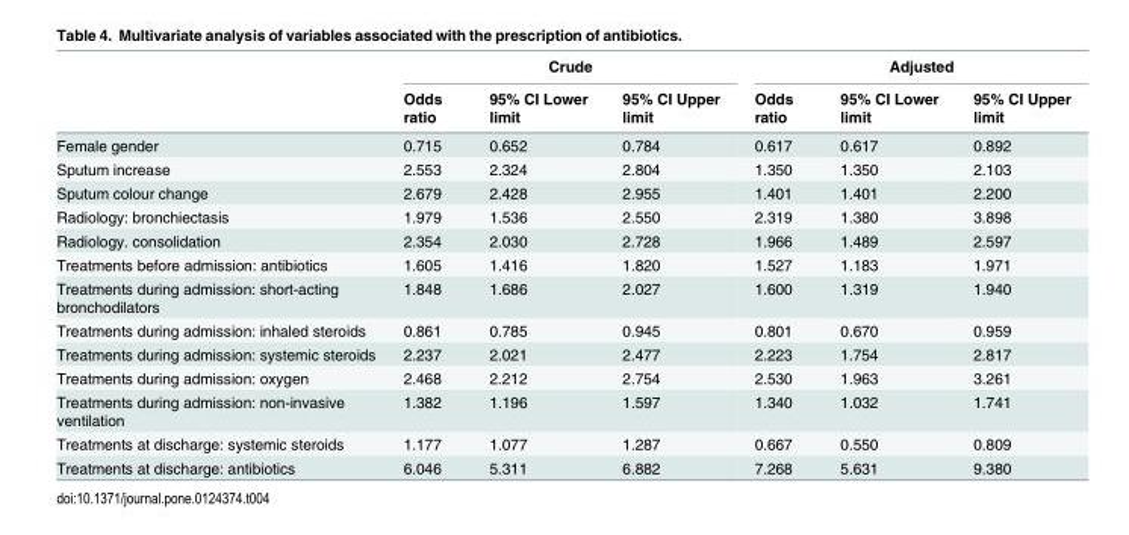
<table><thead><tr><td rowspan="2"></td><td colspan="3">Crude</td><td colspan="3">Adjusted</td></tr><tr><td>Odds ratio</td><td>95% CI Lower limit</td><td>95% CI Upper limit</td><td>Odds ratio</td><td>95% CI Lower limit</td><td>95% CI Upper limit</td></tr></thead><tbody><tr><td>Female gender</td><td>0.715</td><td>0.652</td><td>0.784</td><td>0.617</td><td>0.617</td><td>0.892</td></tr><tr><td>Sputum increase</td><td>2.553</td><td>2.324</td><td>2.804</td><td>1.350</td><td>1.350</td><td>2.103</td></tr><tr><td>Sputum colour change</td><td>2.679</td><td>2.428</td><td>2.955</td><td>1.401</td><td>1.401</td><td>2.200</td></tr><tr><td>Radiology: bronchiectasis</td><td>1.979</td><td>1.536</td><td>2.550</td><td>2.319</td><td>1.380</td><td>3.898</td></tr><tr><td>Radiology. consolidation</td><td>2.354</td><td>2.030</td><td>2.728</td><td>1.966</td><td>1.489</td><td>2.597</td></tr><tr><td>Treatments before admission: antibiotics</td><td>1.605</td><td>1.416</td><td>1.820</td><td>1.527</td><td>1.183</td><td>1.971</td></tr><tr><td>Treatments during admission: short-acting bronchodilators</td><td>1.848</td><td>1.686</td><td>2.027</td><td>1.600</td><td>1.319</td><td>1.940</td></tr><tr><td>Treatments during admission: inhaled steroids</td><td>0.861</td><td>0.785</td><td>0.945</td><td>0.801</td><td>0.670</td><td>0.959</td></tr><tr><td>Treatments during admission: systemic steroids</td><td>2.237</td><td>2.021</td><td>2.477</td><td>2.223</td><td>1.754</td><td>2.817</td></tr><tr><td>Treatments during admission: oxygen</td><td>2.468</td><td>2.212</td><td>2.754</td><td>2.530</td><td>1.963</td><td>3.261</td></tr><tr><td>Treatments during admission: non-invasive ventilation</td><td>1.382</td><td>1.196</td><td>1.597</td><td>1.340</td><td>1.032</td><td>1.741</td></tr><tr><td>Treatments at discharge: systemic steroids</td><td>1.177</td><td>1.077</td><td>1.287</td><td>0.667</td><td>0.550</td><td>0.809</td></tr><tr><td>Treatments at discharge: antibiotics</td><td>6.046</td><td>5.311</td><td>6.882</td><td>7.268</td><td>5.631</td><td>9.380</td></tr></tbody></table>